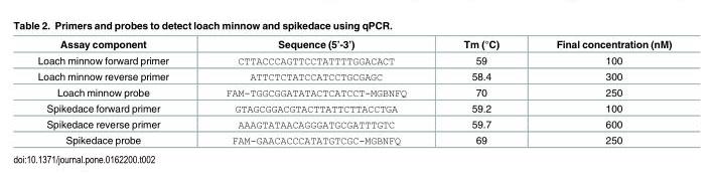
<table><thead><tr><td>Assay component</td><td>Sequence (5’-3’)</td><td>Tm (°C)</td><td>Final concentration (nM)</td></tr></thead><tbody><tr><td>Loach minnow forward primer</td><td>CTTACCCAGTTCCTATTTTGGACACT</td><td>59</td><td>100</td></tr><tr><td>Loach minnow reverse primer</td><td>ATTCTCTATCCATCCTGCGAGC</td><td>58.4</td><td>300</td></tr><tr><td>Loach minnow probe</td><td>FAM-TGGCGGATATACTCATCCT-MGBNFQ</td><td>70</td><td>250</td></tr><tr><td>Spikedace forward primer</td><td>GTAGCGGACGTACTTATTCTTACCTGA</td><td>59.2</td><td>100</td></tr><tr><td>Spikedace reverse primer</td><td>AAAGTATAACAGGGATGCGATTTGTC</td><td>59.7</td><td>600</td></tr><tr><td>Spikedace probe</td><td>FAM-GAACACCCATATGTCGC-MGBNFQ</td><td>69</td><td>250</td></tr></tbody></table>